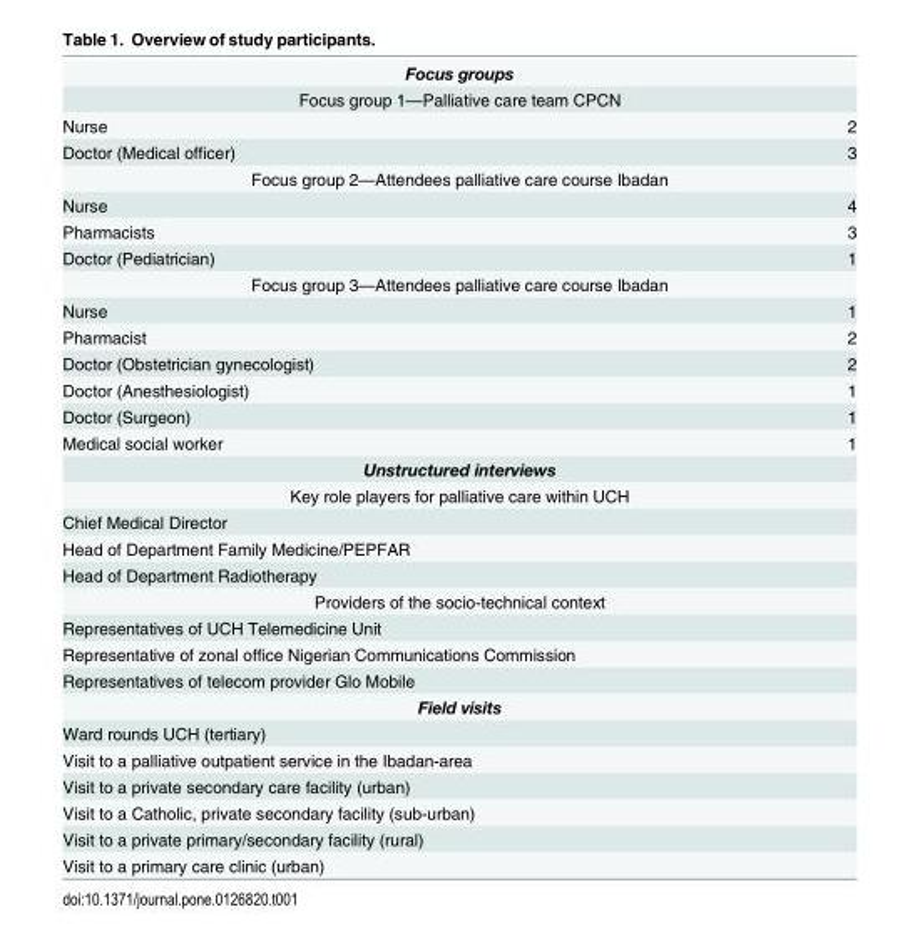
<table><tbody><tr><td colspan="2">Focus groups</td></tr><tr><td colspan="2">Focus group 1—Palliative care team CPCN</td></tr><tr><td>Nurse</td><td>2</td></tr><tr><td>Doctor (Medical officer)</td><td>3</td></tr><tr><td colspan="2">Focus group 2—Attendees palliative care course Ibadan</td></tr><tr><td>Nurse</td><td>4</td></tr><tr><td>Pharmacists</td><td>3</td></tr><tr><td>Doctor (Pediatrician)</td><td>1</td></tr><tr><td colspan="2">Focus group 3—Attendees palliative care course Ibadan</td></tr><tr><td>Nurse</td><td>1</td></tr><tr><td>Pharmacist</td><td>2</td></tr><tr><td>Doctor (Obstetrician gynecologist)</td><td>2</td></tr><tr><td>Doctor (Anesthesiologist)</td><td>1</td></tr><tr><td>Doctor (Surgeon)</td><td>1</td></tr><tr><td>Medical social worker</td><td>1</td></tr><tr><td colspan="2">Unstructured interviews</td></tr><tr><td colspan="2">Key role players for palliative care within UCH</td></tr><tr><td colspan="2">Chief Medical Director</td></tr><tr><td colspan="2">Head of Department Family Medicine/PEPFAR</td></tr><tr><td colspan="2">Head of Department Radiotherapy</td></tr><tr><td colspan="2">Providers of the socio-technical context</td></tr><tr><td colspan="2">Representatives of UCH Telemedicine Unit</td></tr><tr><td colspan="2">Representative of zonal office Nigerian Communications Commission</td></tr><tr><td colspan="2">Representatives of telecom provider Glo Mobile</td></tr><tr><td colspan="2">Field visits</td></tr><tr><td colspan="2">Ward rounds UCH (tertiary)</td></tr><tr><td colspan="2">Visit to a palliative outpatient service in the Ibadan-area</td></tr><tr><td colspan="2">Visit to a private secondary care facility (urban)</td></tr><tr><td colspan="2">Visit to a Catholic, private secondary facility (sub-urban)</td></tr><tr><td colspan="2">Visit to a private primary/secondary facility (rural)</td></tr><tr><td>Visit to a primary care clinic (urban)</td><td></td></tr></tbody></table>